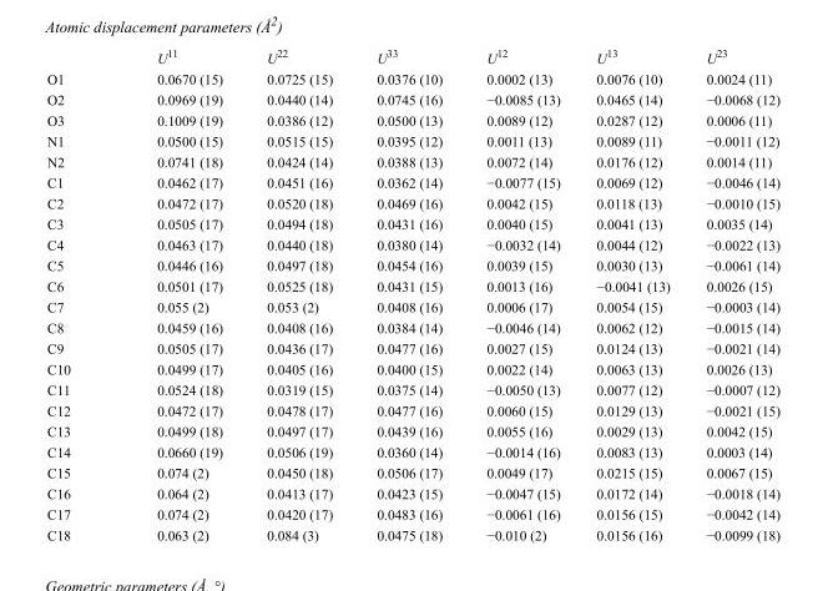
<table><thead><tr><td></td><td>U<sup>11</sup></td><td>U<sup>22</sup></td><td>U<sup>33</sup></td><td>U<sup>12</sup></td><td>U<sup>13</sup></td><td>U<sup>23</sup></td></tr></thead><tbody><tr><td>O1</td><td>0.0670 (15)</td><td>0.0725 (15)</td><td>0.0376 (10)</td><td>0.0002 (13)</td><td>0.0076 (10)</td><td>0.0024 (11)</td></tr><tr><td>O2</td><td>0.0969 (19)</td><td>0.0440 (14)</td><td>0.0745 (16)</td><td>−0.0085 (13)</td><td>0.0465 (14)</td><td>−0.0068 (12)</td></tr><tr><td>O3</td><td>0.1009 (19)</td><td>0.0386 (12)</td><td>0.0500 (13)</td><td>0.0089 (12)</td><td>0.0287 (12)</td><td>0.0006 (11)</td></tr><tr><td>N1</td><td>0.0500 (15)</td><td>0.0515 (15)</td><td>0.0395 (12)</td><td>0.0011 (13)</td><td>0.0089 (11)</td><td>−0.0011 (12)</td></tr><tr><td>N2</td><td>0.0741 (18)</td><td>0.0424 (14)</td><td>0.0388 (13)</td><td>0.0072 (14)</td><td>0.0176 (12)</td><td>0.0014 (11)</td></tr><tr><td>C1</td><td>0.0462 (17)</td><td>0.0451 (16)</td><td>0.0362 (14)</td><td>−0.0077 (15)</td><td>0.0069 (12)</td><td>−0.0046 (14)</td></tr><tr><td>C2</td><td>0.0472 (17)</td><td>0.0520 (18)</td><td>0.0469 (16)</td><td>0.0042 (15)</td><td>0.0118 (13)</td><td>−0.0010 (15)</td></tr><tr><td>C3</td><td>0.0505 (17)</td><td>0.0494 (18)</td><td>0.0431 (16)</td><td>0.0040 (15)</td><td>0.0041 (13)</td><td>0.0035 (14)</td></tr><tr><td>C4</td><td>0.0463 (17)</td><td>0.0440 (18)</td><td>0.0380 (14)</td><td>−0.0032 (14)</td><td>0.0044 (12)</td><td>−0.0022 (13)</td></tr><tr><td>C5</td><td>0.0446 (16)</td><td>0.0497 (18)</td><td>0.0454 (16)</td><td>0.0039 (15)</td><td>0.0030 (13)</td><td>−0.0061 (14)</td></tr><tr><td>C6</td><td>0.0501 (17)</td><td>0.0525 (18)</td><td>0.0431 (15)</td><td>0.0013 (16)</td><td>−0.0041 (13)</td><td>0.0026 (15)</td></tr><tr><td>C7</td><td>0.055 (2)</td><td>0.053 (2)</td><td>0.0408 (16)</td><td>0.0006 (17)</td><td>0.0054 (15)</td><td>−0.0003 (14)</td></tr><tr><td>C8</td><td>0.0459 (16)</td><td>0.0408 (16)</td><td>0.0384 (14)</td><td>−0.0046 (14)</td><td>0.0062 (12)</td><td>−0.0015 (14)</td></tr><tr><td>C9</td><td>0.0505 (17)</td><td>0.0436 (17)</td><td>0.0477 (16)</td><td>0.0027 (15)</td><td>0.0124 (13)</td><td>−0.0021 (14)</td></tr><tr><td>C10</td><td>0.0499 (17)</td><td>0.0405 (16)</td><td>0.0400 (15)</td><td>0.0022 (14)</td><td>0.0063 (13)</td><td>0.0026 (13)</td></tr><tr><td>C11</td><td>0.0524 (18)</td><td>0.0319 (15)</td><td>0.0375 (14)</td><td>−0.0050 (13)</td><td>0.0077 (12)</td><td>−0.0007 (12)</td></tr><tr><td>C12</td><td>0.0472 (17)</td><td>0.0478 (17)</td><td>0.0477 (16)</td><td>0.0060 (15)</td><td>0.0129 (13)</td><td>−0.0021 (15)</td></tr><tr><td>C13</td><td>0.0499 (18)</td><td>0.0497 (17)</td><td>0.0439 (16)</td><td>0.0055 (16)</td><td>0.0029 (13)</td><td>0.0042 (15)</td></tr><tr><td>C14</td><td>0.0660 (19)</td><td>0.0506 (19)</td><td>0.0360 (14)</td><td>−0.0014 (16)</td><td>0.0083 (13)</td><td>0.0003 (14)</td></tr><tr><td>C15</td><td>0.074 (2)</td><td>0.0450 (18)</td><td>0.0506 (17)</td><td>0.0049 (17)</td><td>0.0215 (15)</td><td>0.0067 (15)</td></tr><tr><td>C16</td><td>0.064 (2)</td><td>0.0413 (17)</td><td>0.0423 (15)</td><td>−0.0047 (15)</td><td>0.0172 (14)</td><td>−0.0018 (14)</td></tr><tr><td>C17</td><td>0.074 (2)</td><td>0.0420 (17)</td><td>0.0483 (16)</td><td>−0.0061 (16)</td><td>0.0156 (15)</td><td>−0.0042 (14)</td></tr><tr><td>C18</td><td>0.063 (2)</td><td>0.084 (3)</td><td>0.0475 (18)</td><td>−0.010 (2)</td><td>0.0156 (16)</td><td>−0.0099 (18)</td></tr></tbody></table>